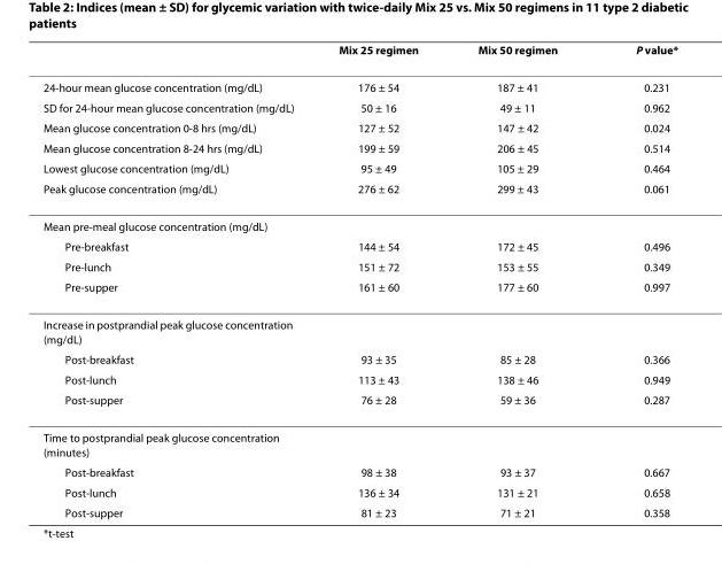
<table><thead><tr><td></td><td>Mix 25 regimen</td><td>Mix 50 regimen</td><td>P value*</td></tr></thead><tbody><tr><td>24-hour mean glucose concentration (mg/dL)</td><td>176 ± 54</td><td>187 ± 41</td><td>0.231</td></tr><tr><td>SD for 24-hour mean glucose concentration (mg/dL)</td><td>50 ± 16</td><td>49 ± 11</td><td>0.962</td></tr><tr><td>Mean glucose concentration 0-8 hrs (mg/dL)</td><td>127 ± 52</td><td>147 ± 42</td><td>0.024</td></tr><tr><td>Mean glucose concentration 8-24 hrs (mg/dL)</td><td>199 ± 59</td><td>206 ± 45</td><td>0.514</td></tr><tr><td>Lowest glucose concentration (mg/dL)</td><td>95 ± 49</td><td>105 ± 29</td><td>0.464</td></tr><tr><td>Peak glucose concentration (mg/dL)</td><td>276 ± 62</td><td>299 ± 43</td><td>0.061</td></tr><tr><td colspan="4">Mean pre-meal glucose concentration (mg/dL)</td></tr><tr><td>Pre-breakfast</td><td>144 ± 54</td><td>172 ± 45</td><td>0.496</td></tr><tr><td>Pre-lunch</td><td>151 ± 72</td><td>153 ± 55</td><td>0.349</td></tr><tr><td>Pre-supper</td><td>161 ± 60</td><td>177 ± 60</td><td>0.997</td></tr><tr><td colspan="4">Increase in postprandial peak glucose concentration (mg/dL)</td></tr><tr><td>Post-breakfast</td><td>93 ± 35</td><td>85 ± 28</td><td>0.366</td></tr><tr><td>Post-lunch</td><td>113 ± 43</td><td>138 ± 46</td><td>0.949</td></tr><tr><td>Post-supper</td><td>76 ± 28</td><td>59 ± 36</td><td>0.287</td></tr><tr><td colspan="4">Time to postprandial peak glucose concentration (minutes)</td></tr><tr><td>Post-breakfast</td><td>98 ± 38</td><td>93 ± 37</td><td>0.667</td></tr><tr><td>Post-lunch</td><td>136 ± 34</td><td>131 ± 21</td><td>0.658</td></tr><tr><td>Post-supper</td><td>81 ± 23</td><td>71 ± 21</td><td>0.358</td></tr></tbody></table>